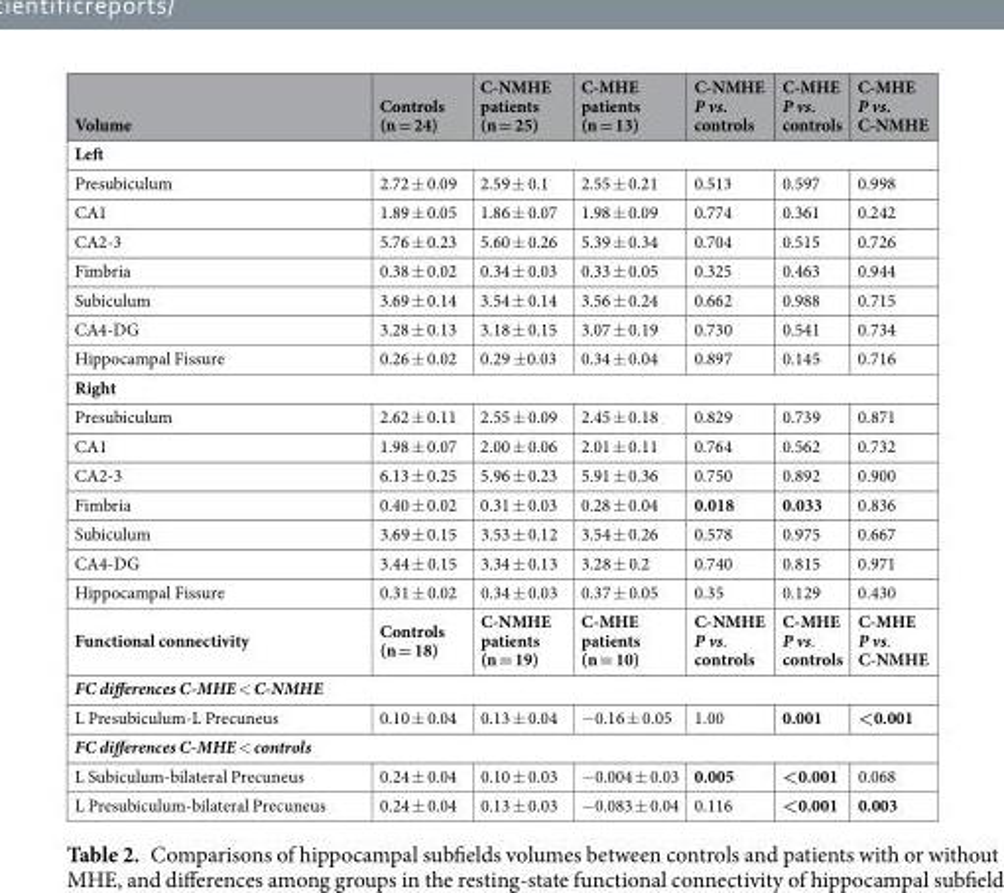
<table><thead><tr><td>Volume</td><td>Controls (n = 24)</td><td>C-NMHE patients (n = 25)</td><td>C-MHE patients (n = 13)</td><td>C-NMHE P vs. controls</td><td>C-MHE P vs. controls</td><td>C-MHE P vs. C-NMHE</td></tr></thead><tbody><tr><td colspan="7">Left</td></tr><tr><td>Presubiculum</td><td>2.72 ± 0.09</td><td>2.59 ± 0.1</td><td>2.55 ± 0.21</td><td>0.513</td><td>0.597</td><td>0.998</td></tr><tr><td>CA1</td><td>1.89 ± 0.05</td><td>1.86 ± 0.07</td><td>1.98 ± 0.09</td><td>0.774</td><td>0.361</td><td>0.242</td></tr><tr><td>CA2-3</td><td>5.76 ± 0.23</td><td>5.60 ± 0.26</td><td>5.39 ± 0.34</td><td>0.704</td><td>0.515</td><td>0.726</td></tr><tr><td>Fimbria</td><td>0.38 ± 0.02</td><td>0.34 ± 0.03</td><td>0.33 ± 0.05</td><td>0.325</td><td>0.463</td><td>0.944</td></tr><tr><td>Subiculum</td><td>3.69 ± 0.14</td><td>3.54 ± 0.14</td><td>3.56 ± 0.24</td><td>0.662</td><td>0.988</td><td>0.715</td></tr><tr><td>CA4-DG</td><td>3.28 ± 0.13</td><td>3.18 ± 0.15</td><td>3.07 ± 0.19</td><td>0.730</td><td>0.541</td><td>0.734</td></tr><tr><td>Hippocampal Fissure</td><td>0.26 ± 0.02</td><td>0.29 ±0.03</td><td>0.34 ± 0.04</td><td>0.897</td><td>0.145</td><td>0.716</td></tr><tr><td colspan="7">Right</td></tr><tr><td>Presubiculum</td><td>2.62 ± 0.11</td><td>2.55 ± 0.09</td><td>2.45 ± 0.18</td><td>0.829</td><td>0.739</td><td>0.871</td></tr><tr><td>CA1</td><td>1.98 ± 0.07</td><td>2.00 ± 0.06</td><td>2.01 ± 0.11</td><td>0.764</td><td>0.562</td><td>0.732</td></tr><tr><td>CA2-3</td><td>6.13 ± 0.25</td><td>5.96 ± 0.23</td><td>5.91 ± 0.36</td><td>0.750</td><td>0.892</td><td>0.900</td></tr><tr><td>Fimbria</td><td>0.40 ± 0.02</td><td>0.31 ± 0.03</td><td>0.28 ± 0.04</td><td>0.018</td><td>0.033</td><td>0.836</td></tr><tr><td>Subiculum</td><td>3.69 ± 0.15</td><td>3.53 ± 0.12</td><td>3.54 ± 0.26</td><td>0.578</td><td>0.975</td><td>0.667</td></tr><tr><td>CA4-DG</td><td>3.44 ± 0.15</td><td>3.34 ± 0.13</td><td>3.28 ± 0.2</td><td>0.740</td><td>0.815</td><td>0.971</td></tr><tr><td>Hippocampal Fissure</td><td>0.31 ± 0.02</td><td>0.34 ± 0.03</td><td>0.37 ± 0.05</td><td>0.35</td><td>0.129</td><td>0.430</td></tr><tr><td>Functional connectivity</td><td>Controls (n = 18)</td><td>C-NMHE patients (n = 19)</td><td>C-MHE patients (n = 10)</td><td>C-NMHE P vs. controls</td><td>C-MHE P vs. controls</td><td>C-MHE P vs. C-NMHE</td></tr><tr><td colspan="7">FC differences C-MHE &lt; C-NMHE</td></tr><tr><td>L Presubiculum-L Precuneus</td><td>0.10 ± 0.04</td><td>0.13 ± 0.04</td><td>−0.16 ± 0.05</td><td>1.00</td><td>0.001</td><td>&lt;0.001</td></tr><tr><td colspan="7">FC differences C-MHE &lt; controls</td></tr><tr><td>L Subiculum-bilateral Precuneus</td><td>0.24 ± 0.04</td><td>0.10 ± 0.03</td><td>−0.004 ± 0.03</td><td>0.005</td><td>&lt;0.001</td><td>0.068</td></tr><tr><td>L Presubiculum-bilateral Precuneus</td><td>0.24 ± 0.04</td><td>0.13 ± 0.03</td><td>−0.083 ± 0.04</td><td>0.116</td><td>&lt;0.001</td><td>0.003</td></tr></tbody></table>